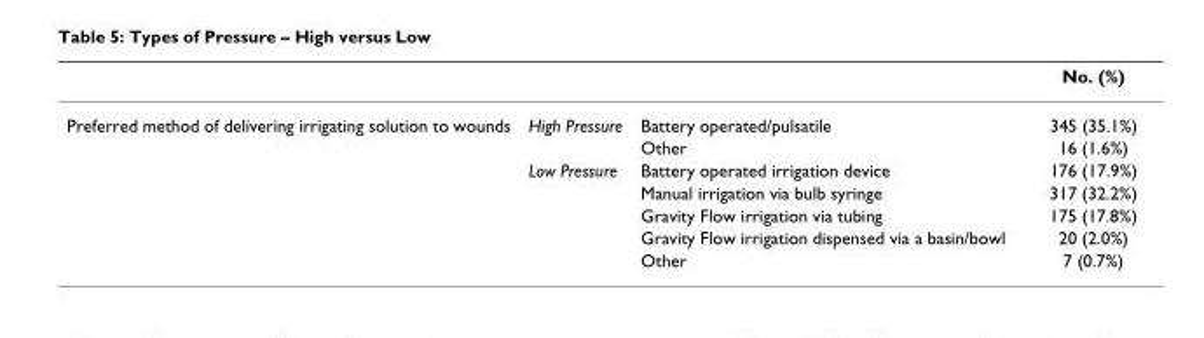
<table><thead><tr><td></td><td></td><td></td><td>No. (%)</td></tr></thead><tbody><tr><td rowspan="7">Preferred method of delivering irrigating solution to wounds</td><td>High Pressure</td><td>Battery operated/pulsatile</td><td>345 (35.1%)</td></tr><tr><td></td><td>Other</td><td>16 (1.6%)</td></tr><tr><td>Low Pressure</td><td>Battery operated irrigation device</td><td>176 (17.9%)</td></tr><tr><td></td><td>Manual irrigation via bulb syringe</td><td>317 (32.2%)</td></tr><tr><td></td><td>Gravity Flow irrigation via tubing</td><td>175 (17.8%)</td></tr><tr><td></td><td>Gravity Flow irrigation dispensed via a basin/bowl</td><td>20 (2.0%)</td></tr><tr><td></td><td>Other</td><td>7 (0.7%)</td></tr></tbody></table>